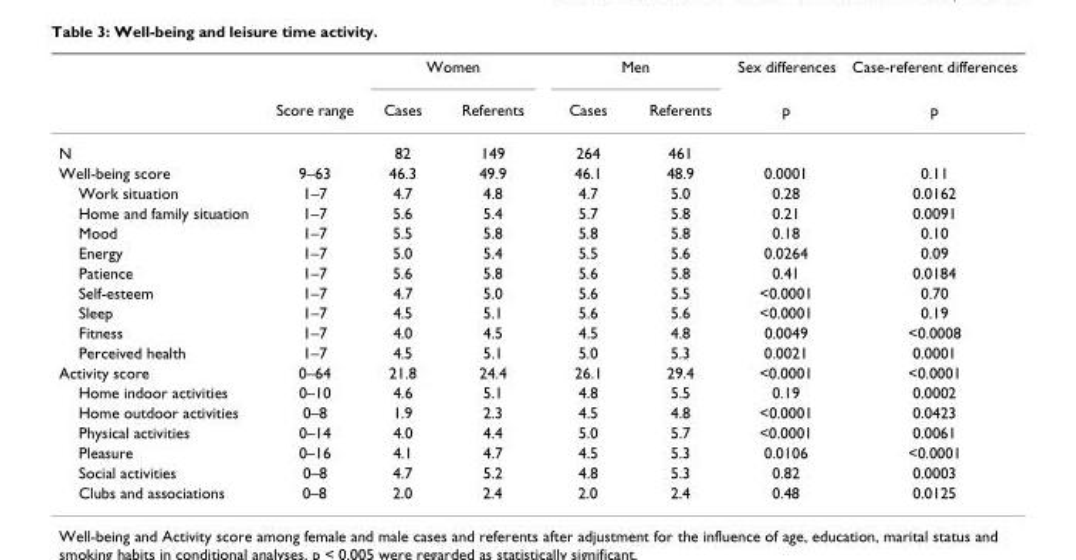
<table><thead><tr><td rowspan="2"></td><td rowspan="2">Score range</td><td colspan="2">Women</td><td colspan="2">Men</td><td rowspan="2">Sex differences p</td><td rowspan="2">Case-referent differences p</td></tr><tr><td>Cases</td><td>Referents</td><td>Cases</td><td>Referents</td></tr></thead><tbody><tr><td>N</td><td></td><td>82</td><td>149</td><td>264</td><td>461</td><td></td><td></td></tr><tr><td>Well-being score</td><td>9–63</td><td>46.3</td><td>49.9</td><td>46.1</td><td>48.9</td><td>0.0001</td><td>0.11</td></tr><tr><td>Work situation</td><td>1–7</td><td>4.7</td><td>4.8</td><td>4.7</td><td>5.0</td><td>0.28</td><td>0.0162</td></tr><tr><td>Home and family situation</td><td>1–7</td><td>5.6</td><td>5.4</td><td>5.7</td><td>5.8</td><td>0.21</td><td>0.0091</td></tr><tr><td>Mood</td><td>1–7</td><td>5.5</td><td>5.8</td><td>5.8</td><td>5.8</td><td>0.18</td><td>0.10</td></tr><tr><td>Energy</td><td>1–7</td><td>5.0</td><td>5.4</td><td>5.5</td><td>5.6</td><td>0.0264</td><td>0.09</td></tr><tr><td>Patience</td><td>1–7</td><td>5.6</td><td>5.8</td><td>5.6</td><td>5.8</td><td>0.41</td><td>0.0184</td></tr><tr><td>Self-esteem</td><td>1–7</td><td>4.7</td><td>5.0</td><td>5.6</td><td>5.5</td><td>&lt;0.0001</td><td>0.70</td></tr><tr><td>Sleep</td><td>1–7</td><td>4.5</td><td>5.1</td><td>5.6</td><td>5.6</td><td>&lt;0.0001</td><td>0.19</td></tr><tr><td>Fitness</td><td>1–7</td><td>4.0</td><td>4.5</td><td>4.5</td><td>4.8</td><td>0.0049</td><td>&lt;0.0008</td></tr><tr><td>Perceived health</td><td>1–7</td><td>4.5</td><td>5.1</td><td>5.0</td><td>5.3</td><td>0.0021</td><td>0.0001</td></tr><tr><td>Activity score</td><td>0–64</td><td>21.8</td><td>24.4</td><td>26.1</td><td>29.4</td><td>&lt;0.0001</td><td>&lt;0.0001</td></tr><tr><td>Home indoor activities</td><td>0–10</td><td>4.6</td><td>5.1</td><td>4.8</td><td>5.5</td><td>0.19</td><td>0.0002</td></tr><tr><td>Home outdoor activities</td><td>0–8</td><td>1.9</td><td>2.3</td><td>4.5</td><td>4.8</td><td>&lt;0.0001</td><td>0.0423</td></tr><tr><td>Physical activities</td><td>0–14</td><td>4.0</td><td>4.4</td><td>5.0</td><td>5.7</td><td>&lt;0.0001</td><td>0.0061</td></tr><tr><td>Pleasure</td><td>0–16</td><td>4.1</td><td>4.7</td><td>4.5</td><td>5.3</td><td>0.0106</td><td>&lt;0.0001</td></tr><tr><td>Social activities</td><td>0–8</td><td>4.7</td><td>5.2</td><td>4.8</td><td>5.3</td><td>0.82</td><td>0.0003</td></tr><tr><td>Clubs and associations</td><td>0–8</td><td>2.0</td><td>2.4</td><td>2.0</td><td>2.4</td><td>0.48</td><td>0.0125</td></tr></tbody></table>